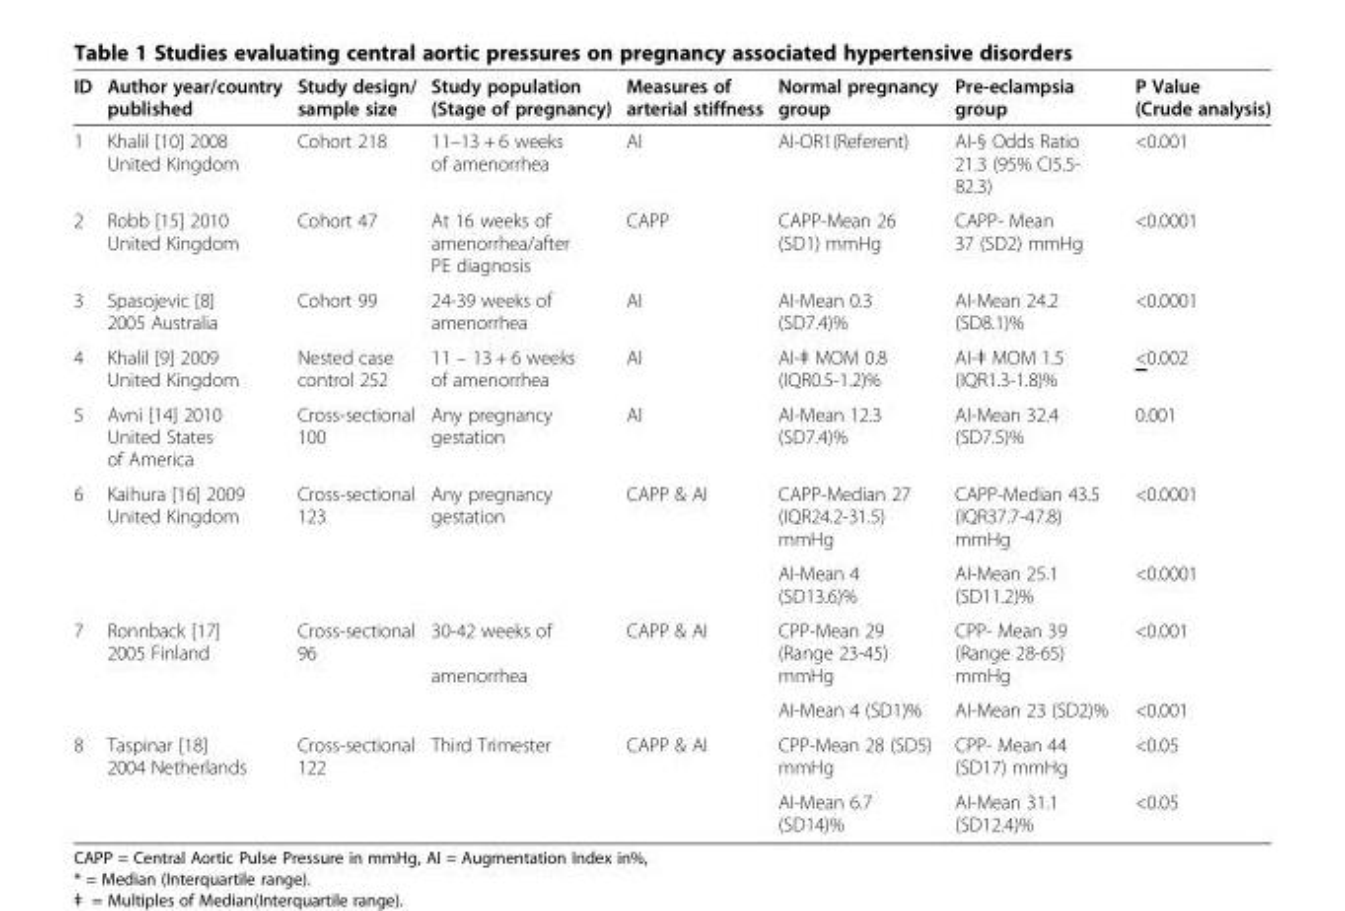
<table><thead><tr><td>ID</td><td>Author year/country published</td><td>Study design/ sample size</td><td>Study population (Stage of pregnancy)</td><td>Measures of arterial stiffness</td><td>Normal pregnancy group</td><td>Pre-eclampsia group</td><td>P Value (Crude analysis)</td></tr></thead><tbody><tr><td>1</td><td>Khalil [10] 2008 United Kingdom</td><td>Cohort 218</td><td>11–13 + 6 weeks of amenorrhea</td><td>AI</td><td>AI-OR1(Referent)</td><td>AI-§ Odds Ratio 21.3 (95% CI5.5- 82.3)</td><td>&lt;0.001</td></tr><tr><td>2</td><td>Robb [15] 2010 United Kingdom</td><td>Cohort 47</td><td>At 16 weeks of amenorrhea/after PE diagnosis</td><td>CAPP</td><td>CAPP-Mean 26 (SD1) mmHg</td><td>CAPP- Mean 37 (SD2) mmHg</td><td>&lt;0.0001</td></tr><tr><td>3</td><td>Spasojevic [8] 2005 Australia</td><td>Cohort 99</td><td>24-39 weeks of amenorrhea</td><td>AI</td><td>AI-Mean 0.3 (SD7.4)%</td><td>AI-Mean 24.2 (SD8.1)%</td><td>&lt;0.0001</td></tr><tr><td>4</td><td>Khalil [9] 2009 United Kingdom</td><td>Nested case control 252</td><td>11 – 13 + 6 weeks of amenorrhea</td><td>AI</td><td>AI-ǂ MOM 0.8 (IQR0.5-1.2)%</td><td>AI-ǂ MOM 1.5 (IQR1.3-1.8)%</td><td>&lt;0.002</td></tr><tr><td>5</td><td>Avni [14] 2010 United States of America</td><td>Cross-sectional 100</td><td>Any pregnancy gestation</td><td>AI</td><td>AI-Mean 12.3 (SD7.4)%</td><td>AI-Mean 32.4 (SD7.5)%</td><td>0.001</td></tr><tr><td rowspan="2">6</td><td rowspan="2">Kaihura [16] 2009 United Kingdom</td><td rowspan="2">Cross-sectional 123</td><td rowspan="2">Any pregnancy gestation</td><td rowspan="2">CAPP &amp; AI</td><td>CAPP-Median 27 (IQR24.2-31.5) mmHg</td><td>CAPP-Median 43.5 (IQR37.7-47.8) mmHg</td><td>&lt;0.0001</td></tr><tr><td>AI-Mean 4 (SD13.6)%</td><td>AI-Mean 25.1 (SD11.2)%</td><td>&lt;0.0001</td></tr><tr><td rowspan="2">7</td><td rowspan="2">Ronnback [17] 2005 Finland</td><td rowspan="2">Cross-sectional 96</td><td rowspan="2">30-42 weeks of amenorrhea</td><td rowspan="2">CAPP &amp; AI</td><td>CPP-Mean 29 (Range 23-45) mmHg</td><td>CPP- Mean 39 (Range 28-65) mmHg</td><td>&lt;0.001</td></tr><tr><td>AI-Mean 4 (SD1)%</td><td>AI-Mean 23 (SD2)%</td><td>&lt;0.001</td></tr><tr><td rowspan="2">8</td><td>Taspinar [18] 2004 Netherlands</td><td>Cross-sectional 122</td><td>Third Trimester</td><td>CAPP &amp; AI</td><td>CPP-Mean 28 (SD5) mmHg</td><td>CPP- Mean 44 (SD17) mmHg</td><td>&lt;0.05</td></tr><tr><td></td><td></td><td></td><td></td><td>AI-Mean 6.7 (SD14)%</td><td>AI-Mean 31.1 (SD12.4)%</td><td>&lt;0.05</td></tr></tbody></table>